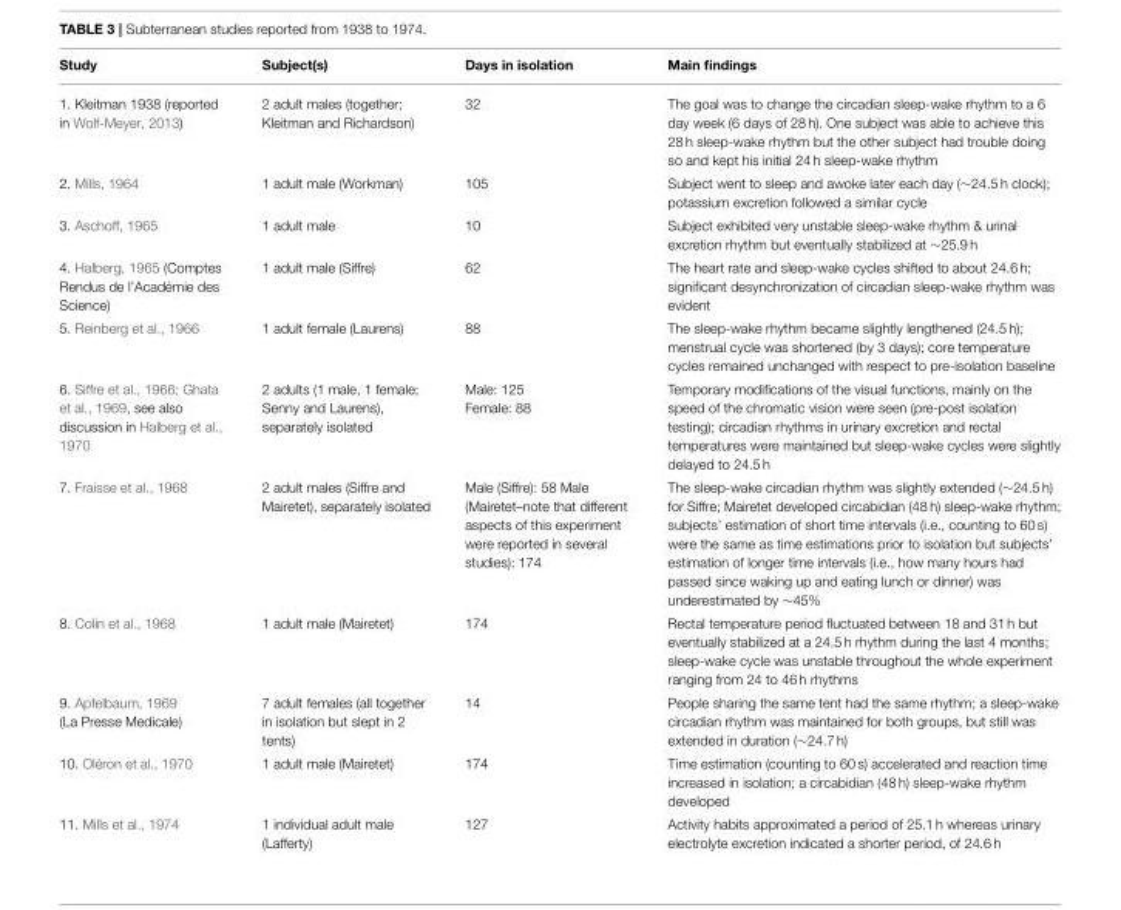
<table><thead><tr><td>Study</td><td>Subject(s)</td><td>Days in isolation</td><td>Main findings</td></tr></thead><tbody><tr><td>1. Kleitman 1938 (reported in Wolf-Meyer, 2013)</td><td>2 adult males (together; Kleitman and Richardson)</td><td>32</td><td>The goal was to change the circadian sleep-wake rhythm to a 6 day week (6 days of 28 h). One subject was able to achieve this 28 h sleep-wake rhythm but the other subject had trouble doing so and kept his initial 24 h sleep-wake rhythm</td></tr><tr><td>2. Mills, 1964</td><td>1 adult male (Workman)</td><td>105</td><td>Subject went to sleep and awoke later each day (∼24.5 h clock); potassium excretion followed a similar cycle</td></tr><tr><td>3. Aschoff, 1965</td><td>1 adult male</td><td>10</td><td>Subject exhibited very unstable sleep-wake rhythm &amp; urinal excretion rhythm but eventually stabilized at ∼25.9 h</td></tr><tr><td>4. Halberg, 1965 (Comptes Rendus de l’Académie des Science)</td><td>1 adult male (Siffre)</td><td>62</td><td>The heart rate and sleep-wake cycles shifted to about 24.6 h; significant desynchronization of circadian sleep-wake rhythm was evident</td></tr><tr><td>5. Reinberg et al., 1966</td><td>1 adult female (Laurens)</td><td>88</td><td>The sleep-wake rhythm became slightly lengthened (24.5 h); menstrual cycle was shortened (by 3 days); core temperature cycles remained unchanged with respect to pre-isolation baseline</td></tr><tr><td>6. Siffre et al., 1966; Ghata et al., 1969, see also discussion in Halberg et al., 1970</td><td>2 adults (1 male, 1 female; Senny and Laurens), separately isolated</td><td>Male: 125 Female: 88</td><td>Temporary modifications of the visual functions, mainly on the speed of the chromatic vision were seen (pre-post isolation testing); circadian rhythms in urinary excretion and rectal temperatures were maintained but sleep-wake cycles were slightly delayed to 24.5 h</td></tr><tr><td>7. Fraisse et al., 1968</td><td>2 adult males (Siffre and Mairetet), separately isolated</td><td>Male (Siffre): 58 Male (Mairetet–note that different aspects of this experiment were reported in several studies): 174</td><td>The sleep-wake circadian rhythm was slightly extended (∼24.5 h) for Siffre; Mairetet developed circabidian (48 h) sleep-wake rhythm; subjects’ estimation of short time intervals (i.e., counting to 60 s) were the same as time estimations prior to isolation but subjects’ estimation of longer time intervals (i.e., how many hours had passed since waking up and eating lunch or dinner) was underestimated by ∼45%</td></tr><tr><td>8. Colin et al., 1968</td><td>1 adult male (Mairetet)</td><td>174</td><td>Rectal temperature period fluctuated between 18 and 31 h but eventually stabilized at a 24.5 h rhythm during the last 4 months; sleep-wake cycle was unstable throughout the whole experiment ranging from 24 to 46 h rhythms</td></tr><tr><td>9. Apfelbaum, 1969 (La Presse Medicale)</td><td>7 adult females (all together in isolation but slept in 2 tents)</td><td>14</td><td>People sharing the same tent had the same rhythm; a sleep-wake circadian rhythm was maintained for both groups, but still was extended in duration (∼24.7 h)</td></tr><tr><td>10. Oléron et al., 1970</td><td>1 adult male (Mairetet)</td><td>174</td><td>Time estimation (counting to 60 s) accelerated and reaction time increased in isolation; a circabidian (48 h) sleep-wake rhythm developed</td></tr><tr><td>11. Mills et al., 1974</td><td>1 individual adult male (Lafferty)</td><td>127</td><td>Activity habits approximated a period of 25.1 h whereas urinary electrolyte excretion indicated a shorter period, of 24.6 h</td></tr></tbody></table>